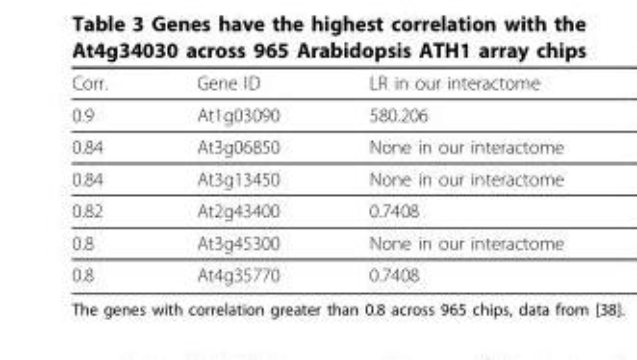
<table><thead><tr><td>Corr.</td><td>Gene ID</td><td>LR in our interactome</td></tr></thead><tbody><tr><td>0.9</td><td>At1g03090</td><td>580.206</td></tr><tr><td>0.84</td><td>At3g06850</td><td>None in our interactome</td></tr><tr><td>0.84</td><td>At3g13450</td><td>None in our interactome</td></tr><tr><td>0.82</td><td>At2g43400</td><td>0.7408</td></tr><tr><td>0.8</td><td>At3g45300</td><td>None in our interactome</td></tr><tr><td>0.8</td><td>At4g35770</td><td>0.7408</td></tr></tbody></table>